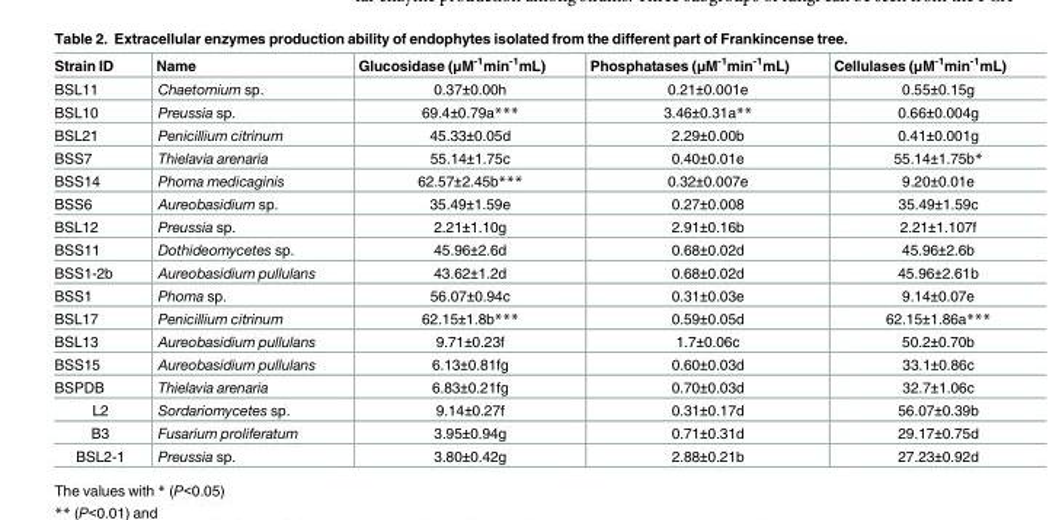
<table><thead><tr><td>Strain ID</td><td>Name</td><td>Glucosidase (μM<sup>-1</sup>min<sup>-1</sup>mL)</td><td>Phosphatases (μM<sup>-1</sup>min<sup>-1</sup>mL)</td><td>Cellulases (μM<sup>-1</sup>min<sup>-1</sup>mL)</td></tr></thead><tbody><tr><td>BSL11</td><td>Chaetomium sp.</td><td>0.37±0.00h</td><td>0.21±0.001e</td><td>0.55±0.15g</td></tr><tr><td>BSL10</td><td>Preussia sp.</td><td>69.4±0.79a***</td><td>3.46±0.31a**</td><td>0.66±0.004g</td></tr><tr><td>BSL21</td><td>Penicillium citrinum</td><td>45.33±0.05d</td><td>2.29±0.00b</td><td>0.41±0.001g</td></tr><tr><td>BSS7</td><td>Thielavia arenaria</td><td>55.14±1.75c</td><td>0.40±0.01e</td><td>55.14±1.75b*</td></tr><tr><td>BSS14</td><td>Phoma medicaginis</td><td>62.57±2.45b***</td><td>0.32±0.007e</td><td>9.20±0.01e</td></tr><tr><td>BSS6</td><td>Aureobasidium sp.</td><td>35.49±1.59e</td><td>0.27±0.008</td><td>35.49±1.59c</td></tr><tr><td>BSL12</td><td>Preussia sp.</td><td>2.21±1.10g</td><td>2.91±0.16b</td><td>2.21±1.107f</td></tr><tr><td>BSS11</td><td>Dothideomycetes sp.</td><td>45.96±2.6d</td><td>0.68±0.02d</td><td>45.96±2.6b</td></tr><tr><td>BSS1-2b</td><td>Aureobasidium pullulans</td><td>43.62±1.2d</td><td>0.68±0.02d</td><td>45.96±2.61b</td></tr><tr><td>BSS1</td><td>Phoma sp.</td><td>56.07±0.94c</td><td>0.31±0.03e</td><td>9.14±0.07e</td></tr><tr><td>BSL17</td><td>Penicillium citrinum</td><td>62.15±1.8b***</td><td>0.59±0.05d</td><td>62.15±1.86a***</td></tr><tr><td>BSL13</td><td>Aureobasidium pullulans</td><td>9.71±0.23f</td><td>1.7±0.06c</td><td>50.2±0.70b</td></tr><tr><td>BSS15</td><td>Aureobasidium pullulans</td><td>6.13±0.81fg</td><td>0.60±0.03d</td><td>33.1±0.86c</td></tr><tr><td>BSPDB</td><td>Thielavia arenaria</td><td>6.83±0.21fg</td><td>0.70±0.03d</td><td>32.7±1.06c</td></tr><tr><td>L2</td><td>Sordariomycetes sp.</td><td>9.14±0.27f</td><td>0.31±0.17d</td><td>56.07±0.39b</td></tr><tr><td>B3</td><td>Fusarium proliferatum</td><td>3.95±0.94g</td><td>0.71±0.31d</td><td>29.17±0.75d</td></tr><tr><td>BSL2-1</td><td>Preussia sp.</td><td>3.80±0.42g</td><td>2.88±0.21b</td><td>27.23±0.92d</td></tr></tbody></table>